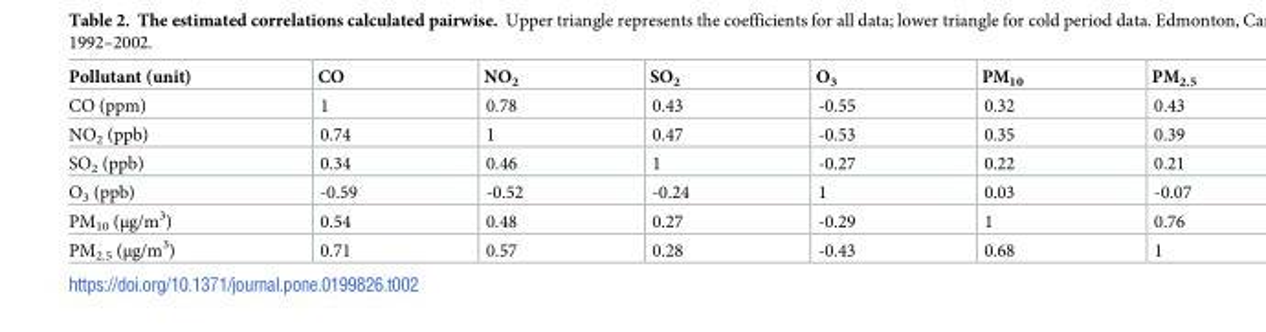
<table><thead><tr><td>Pollutant (unit)</td><td>CO</td><td>NO<sub>2</sub></td><td>SO<sub>2</sub></td><td>O<sub>3</sub></td><td>PM<sub>10</sub></td><td>PM<sub>2.5</sub></td></tr></thead><tbody><tr><td>CO (ppm)</td><td>1</td><td>0.78</td><td>0.43</td><td>-0.55</td><td>0.32</td><td>0.43</td></tr><tr><td>NO<sub>2</sub> (ppb)</td><td>0.74</td><td>1</td><td>0.47</td><td>-0.53</td><td>0.35</td><td>0.39</td></tr><tr><td>SO<sub>2</sub> (ppb)</td><td>0.34</td><td>0.46</td><td>1</td><td>-0.27</td><td>0.22</td><td>0.21</td></tr><tr><td>O<sub>3</sub> (ppb)</td><td>-0.59</td><td>-0.52</td><td>-0.24</td><td>1</td><td>0.03</td><td>-0.07</td></tr><tr><td>PM<sub>10</sub> (μg/m<sup>3</sup>)</td><td>0.54</td><td>0.48</td><td>0.27</td><td>-0.29</td><td>1</td><td>0.76</td></tr><tr><td>PM<sub>2.5</sub> (μg/m<sup>3</sup>)</td><td>0.71</td><td>0.57</td><td>0.28</td><td>-0.43</td><td>0.68</td><td>1</td></tr></tbody></table>